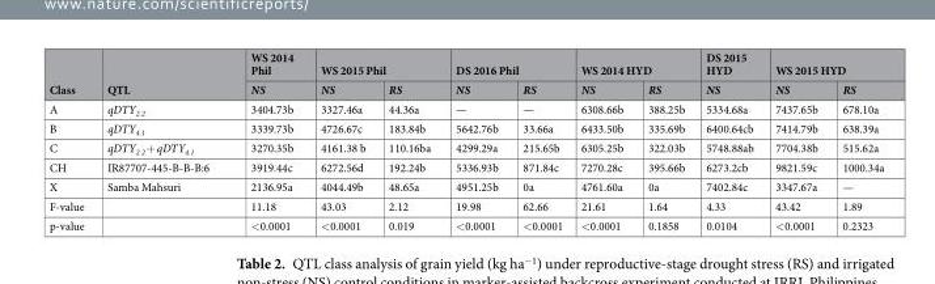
<table><thead><tr><td rowspan="2">Class</td><td rowspan="2">QTL</td><td rowspan="2">WS 2014 Phil NS</td><td colspan="2">WS 2015 Phil</td><td colspan="2">DS 2016 Phil</td><td colspan="2">WS 2014 HYD</td><td rowspan="2">DS 2015 HYD NS</td><td colspan="2">WS 2015 HYD</td></tr><tr><td>NS</td><td>RS</td><td>NS</td><td>RS</td><td>NS</td><td>RS</td><td>NS</td><td>RS</td></tr></thead><tbody><tr><td>A</td><td>qDTY<sub>2.2</sub></td><td>3404.73b</td><td>3327.46a</td><td>44.36a</td><td>—</td><td>—</td><td>6308.66b</td><td>388.25b</td><td>5334.68a</td><td>7437.65b</td><td>678.10a</td></tr><tr><td>B</td><td>qDTY<sub>4.1</sub></td><td>3339.73b</td><td>4726.67c</td><td>183.84b</td><td>5642.76b</td><td>33.66a</td><td>6433.50b</td><td>335.69b</td><td>6400.64cb</td><td>7414.79b</td><td>638.39a</td></tr><tr><td>C</td><td>qDTY<sub>2.2</sub> + qDTY<sub>4.1</sub></td><td>3270.35b</td><td>4161.38 b</td><td>110.16ba</td><td>4299.29a</td><td>215.65b</td><td>6305.25b</td><td>322.03b</td><td>5748.88ab</td><td>7704.38b</td><td>515.62a</td></tr><tr><td>CH</td><td>IR87707-445-B-B-B:6</td><td>3919.44c</td><td>6272.56d</td><td>192.24b</td><td>5336.93b</td><td>871.84c</td><td>7270.28c</td><td>395.66b</td><td>6273.2cb</td><td>9821.59c</td><td>1000.34a</td></tr><tr><td>X</td><td>Samba Mahsuri</td><td>2136.95a</td><td>4044.49b</td><td>48.65a</td><td>4951.25b</td><td>0a</td><td>4761.60a</td><td>0a</td><td>7402.84c</td><td>3347.67a</td><td>—</td></tr><tr><td>F-value</td><td></td><td>11.18</td><td>43.03</td><td>2.12</td><td>19.98</td><td>62.66</td><td>21.61</td><td>1.64</td><td>4.33</td><td>43.42</td><td>1.89</td></tr><tr><td>p-value</td><td></td><td>&lt;0.0001</td><td>&lt;0.0001</td><td>0.019</td><td>&lt;0.0001</td><td>&lt;0.0001</td><td>&lt;0.0001</td><td>0.1858</td><td>0.0104</td><td>&lt;0.0001</td><td>0.2323</td></tr></tbody></table>